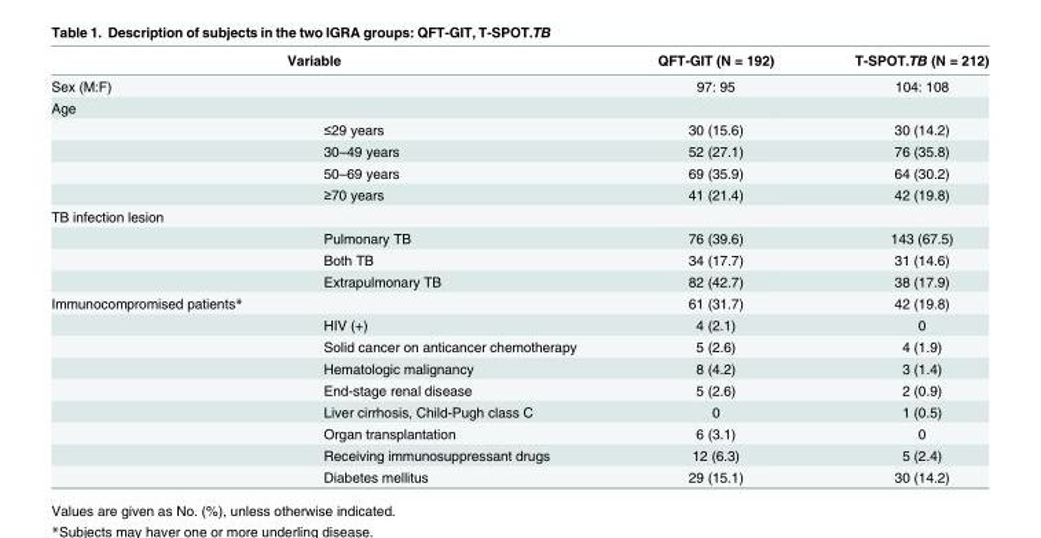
<table><thead><tr><td colspan="2">Variable</td><td rowspan="2">QFT-GIT (N = 192) 97: 95</td><td rowspan="2">T-SPOT.TB (N = 212) 104: 108</td></tr><tr><td>Sex (M:F)</td><td></td></tr></thead><tbody><tr><td colspan="4">Age</td></tr><tr><td></td><td>≤29 years</td><td>30 (15.6)</td><td>30 (14.2)</td></tr><tr><td></td><td>30–49 years</td><td>52 (27.1)</td><td>76 (35.8)</td></tr><tr><td></td><td>50–69 years</td><td>69 (35.9)</td><td>64 (30.2)</td></tr><tr><td></td><td>≥70 years</td><td>41 (21.4)</td><td>42 (19.8)</td></tr><tr><td colspan="4">TB infection lesion</td></tr><tr><td></td><td>Pulmonary TB</td><td>76 (39.6)</td><td>143 (67.5)</td></tr><tr><td></td><td>Both TB</td><td>34 (17.7)</td><td>31 (14.6)</td></tr><tr><td></td><td>Extrapulmonary TB</td><td>82 (42.7)</td><td>38 (17.9)</td></tr><tr><td rowspan="9">Immunocompromised patients*</td><td></td><td>61 (31.7)</td><td>42 (19.8)</td></tr><tr><td>HIV (+)</td><td>4 (2.1)</td><td>0</td></tr><tr><td>Solid cancer on anticancer chemotherapy</td><td>5 (2.6)</td><td>4 (1.9)</td></tr><tr><td>Hematologic malignancy</td><td>8 (4.2)</td><td>3 (1.4)</td></tr><tr><td>End-stage renal disease</td><td>5 (2.6)</td><td>2 (0.9)</td></tr><tr><td>Liver cirrhosis, Child-Pugh class C</td><td>0</td><td>1 (0.5)</td></tr><tr><td>Organ transplantation</td><td>6 (3.1)</td><td>0</td></tr><tr><td>Receiving immunosuppressant drugs</td><td>12 (6.3)</td><td>5 (2.4)</td></tr><tr><td>Diabetes mellitus</td><td>29 (15.1)</td><td>30 (14.2)</td></tr></tbody></table>